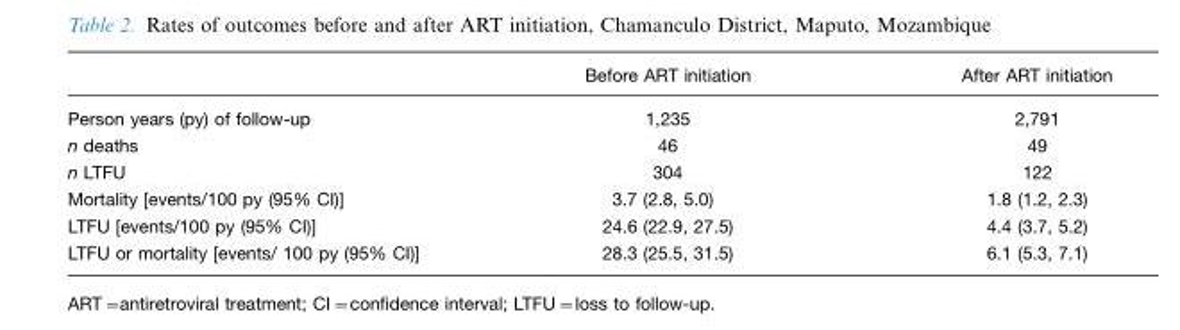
<table><thead><tr><td></td><td>Before ART initiation</td><td>After ART initiation</td></tr></thead><tbody><tr><td>Person years (py) of follow-up</td><td>1,235</td><td>2,791</td></tr><tr><td>n deaths</td><td>46</td><td>49</td></tr><tr><td>n LTFU</td><td>304</td><td>122</td></tr><tr><td>Mortality [events/100 py (95% CI)]</td><td>3.7 (2.8, 5.0)</td><td>1.8 (1.2, 2.3)</td></tr><tr><td>LTFU [events/100 py (95% CI)]</td><td>24.6 (22.9, 27.5)</td><td>4.4 (3.7, 5.2)</td></tr><tr><td>LTFU or mortality [events/ 100 py (95% CI)]</td><td>28.3 (25.5, 31.5)</td><td>6.1 (5.3, 7.1)</td></tr></tbody></table>